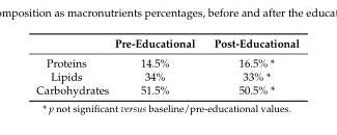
<table><thead><tr><td></td><td>Pre-Educational</td><td>Post-Educational</td></tr></thead><tbody><tr><td>Proteins</td><td>14.5%</td><td>16.5% *</td></tr><tr><td>Lipids</td><td>34%</td><td>33% *</td></tr><tr><td>Carbohydrates</td><td>51.5%</td><td>50.5% *</td></tr></tbody></table>